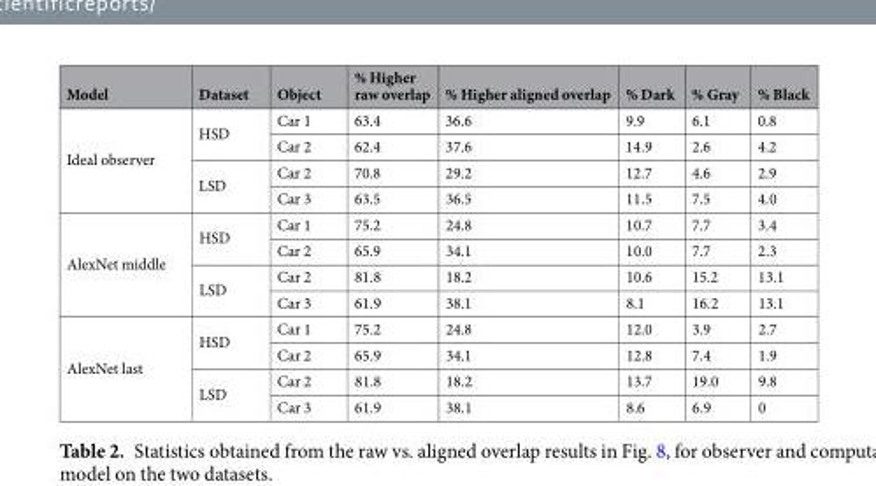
<table><thead><tr><td>Model</td><td>Dataset</td><td>Object</td><td>% Higher raw overlap</td><td>% Higher aligned overlap</td><td>% Dark</td><td>% Gray</td><td>% Black</td></tr></thead><tbody><tr><td rowspan="4">Ideal observer</td><td rowspan="2">HSD</td><td>Car 1</td><td>63.4</td><td>36.6</td><td>9.9</td><td>6.1</td><td>0.8</td></tr><tr><td>Car 2</td><td>62.4</td><td>37.6</td><td>14.9</td><td>2.6</td><td>4.2</td></tr><tr><td rowspan="2">LSD</td><td>Car 2</td><td>70.8</td><td>29.2</td><td>12.7</td><td>4.6</td><td>2.9</td></tr><tr><td>Car 3</td><td>63.5</td><td>36.5</td><td>11.5</td><td>7.5</td><td>4.0</td></tr><tr><td rowspan="4">AlexNet middle</td><td rowspan="2">HSD</td><td>Car 1</td><td>75.2</td><td>24.8</td><td>10.7</td><td>7.7</td><td>3.4</td></tr><tr><td>Car 2</td><td>65.9</td><td>34.1</td><td>10.0</td><td>7.7</td><td>2.3</td></tr><tr><td rowspan="2">LSD</td><td>Car 2</td><td>81.8</td><td>18.2</td><td>10.6</td><td>15.2</td><td>13.1</td></tr><tr><td>Car 3</td><td>61.9</td><td>38.1</td><td>8.1</td><td>16.2</td><td>13.1</td></tr><tr><td rowspan="4">AlexNet last</td><td rowspan="2">HSD</td><td>Car 1</td><td>75.2</td><td>24.8</td><td>12.0</td><td>3.9</td><td>2.7</td></tr><tr><td>Car 2</td><td>65.9</td><td>34.1</td><td>12.8</td><td>7.4</td><td>1.9</td></tr><tr><td rowspan="2">LSD</td><td>Car 2</td><td>81.8</td><td>18.2</td><td>13.7</td><td>19.0</td><td>9.8</td></tr><tr><td>Car 3</td><td>61.9</td><td>38.1</td><td>8.6</td><td>6.9</td><td>0</td></tr></tbody></table>